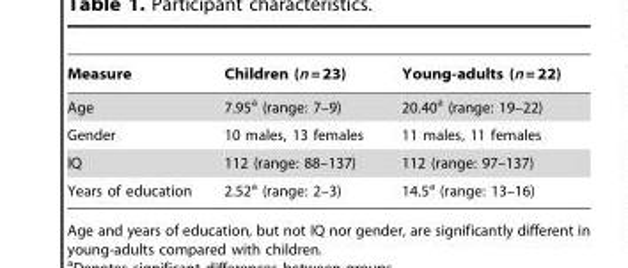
<table><thead><tr><td>Measure</td><td>Children (n = 23)</td><td>Young-adults (n = 22)</td></tr></thead><tbody><tr><td>Age</td><td>7.95<sup>a</sup> (range: 7–9)</td><td>20.40<sup>a</sup> (range: 19–22)</td></tr><tr><td>Gender</td><td>10 males, 13 females</td><td>11 males, 11 females</td></tr><tr><td>IQ</td><td>112 (range: 88–137)</td><td>112 (range: 97–137)</td></tr><tr><td>Years of education</td><td>2.52<sup>a</sup> (range: 2–3)</td><td>14.5<sup>a</sup> (range: 13–16)</td></tr></tbody></table>